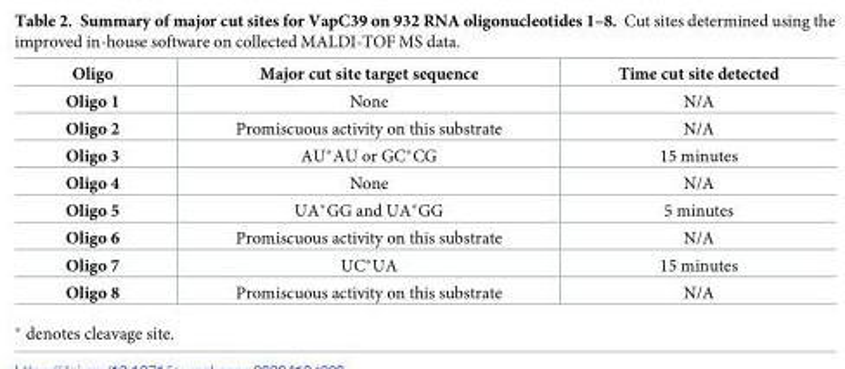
<table><thead><tr><td>Oligo</td><td>Major cut site target sequence</td><td>Time cut site detected</td></tr></thead><tbody><tr><td>Oligo 1</td><td>None</td><td>N/A</td></tr><tr><td>Oligo 2</td><td>Promiscuous activity on this substrate</td><td>N/A</td></tr><tr><td>Oligo 3</td><td>AU*AU or GC*CG</td><td>15 minutes</td></tr><tr><td>Oligo 4</td><td>None</td><td>N/A</td></tr><tr><td>Oligo 5</td><td>UA*GG and UA*GG</td><td>5 minutes</td></tr><tr><td>Oligo 6</td><td>Promiscuous activity on this substrate</td><td>N/A</td></tr><tr><td>Oligo 7</td><td>UC*UA</td><td>15 minutes</td></tr><tr><td>Oligo 8</td><td>Promiscuous activity on this substrate</td><td>N/A</td></tr></tbody></table>